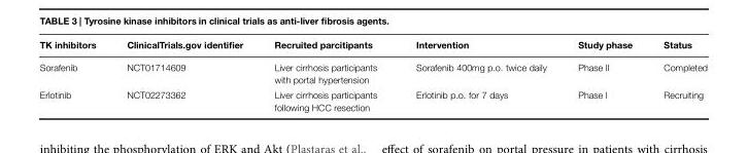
<table><thead><tr><td>TK inhibitors</td><td>ClinicalTrials.gov identifier</td><td>Recruited parcitipants</td><td>Intervention</td><td>Study phase</td><td>Status</td></tr></thead><tbody><tr><td>Sorafenib</td><td>NCT01714609</td><td>Liver cirrhosis participants with portal hypertension</td><td>Sorafenib 400mg p.o. twice daily</td><td>Phase II</td><td>Completed</td></tr><tr><td>Erlotinib</td><td>NCT02273362</td><td>Liver cirrhosis participants following HCC resection</td><td>Erlotinib p.o. for 7 days</td><td>Phase I</td><td>Recruiting</td></tr></tbody></table>